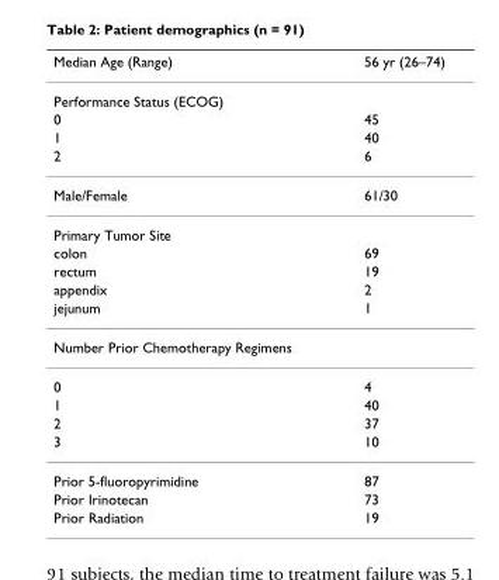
<table><thead><tr><td>Median Age (Range)</td><td>56 yr (26–74)</td></tr></thead><tbody><tr><td colspan="2">Performance Status (ECOG)</td></tr><tr><td>0</td><td>45</td></tr><tr><td>1</td><td>40</td></tr><tr><td>2</td><td>6</td></tr><tr><td>Male/Female</td><td>61/30</td></tr><tr><td colspan="2">Primary Tumor Site</td></tr><tr><td>colon</td><td>69</td></tr><tr><td>rectum</td><td>19</td></tr><tr><td>appendix</td><td>2</td></tr><tr><td>jejunum</td><td>1</td></tr><tr><td colspan="2">Number Prior Chemotherapy Regimens</td></tr><tr><td>0</td><td>4</td></tr><tr><td>1</td><td>40</td></tr><tr><td>2</td><td>37</td></tr><tr><td>3</td><td>10</td></tr><tr><td>Prior 5-fluoropyrimidine</td><td>87</td></tr><tr><td>Prior Irinotecan</td><td>73</td></tr><tr><td>Prior Radiation</td><td>19</td></tr></tbody></table>